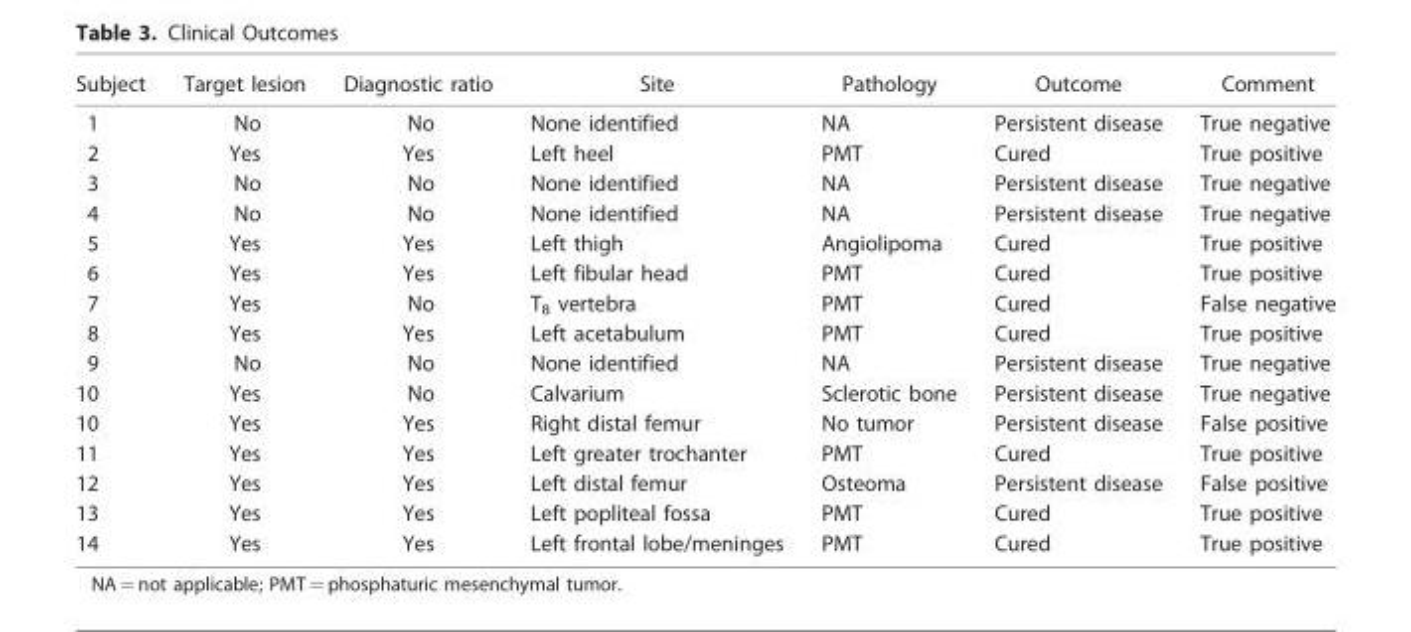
<table><thead><tr><td>Subject</td><td>Target lesion</td><td>Diagnostic ratio</td><td>Site</td><td>Pathology</td><td>Outcome</td><td>Comment</td></tr></thead><tbody><tr><td>1</td><td>No</td><td>No</td><td>None identified</td><td>NA</td><td>Persistent disease</td><td>True negative</td></tr><tr><td>2</td><td>Yes</td><td>Yes</td><td>Left heel</td><td>PMT</td><td>Cured</td><td>True positive</td></tr><tr><td>3</td><td>No</td><td>No</td><td>None identified</td><td>NA</td><td>Persistent disease</td><td>True negative</td></tr><tr><td>4</td><td>No</td><td>No</td><td>None identified</td><td>NA</td><td>Persistent disease</td><td>True negative</td></tr><tr><td>5</td><td>Yes</td><td>Yes</td><td>Left thigh</td><td>Angiolipoma</td><td>Cured</td><td>True positive</td></tr><tr><td>6</td><td>Yes</td><td>Yes</td><td>Left fibular head</td><td>PMT</td><td>Cured</td><td>True positive</td></tr><tr><td>7</td><td>Yes</td><td>No</td><td>T<sub>8</sub> vertebra</td><td>PMT</td><td>Cured</td><td>False negative</td></tr><tr><td>8</td><td>Yes</td><td>Yes</td><td>Left acetabulum</td><td>PMT</td><td>Cured</td><td>True positive</td></tr><tr><td>9</td><td>No</td><td>No</td><td>None identified</td><td>NA</td><td>Persistent disease</td><td>True negative</td></tr><tr><td>10</td><td>Yes</td><td>No</td><td>Calvarium</td><td>Sclerotic bone</td><td>Persistent disease</td><td>True negative</td></tr><tr><td>10</td><td>Yes</td><td>Yes</td><td>Right distal femur</td><td>No tumor</td><td>Persistent disease</td><td>False positive</td></tr><tr><td>11</td><td>Yes</td><td>Yes</td><td>Left greater trochanter</td><td>PMT</td><td>Cured</td><td>True positive</td></tr><tr><td>12</td><td>Yes</td><td>Yes</td><td>Left distal femur</td><td>Osteoma</td><td>Persistent disease</td><td>False positive</td></tr><tr><td>13</td><td>Yes</td><td>Yes</td><td>Left popliteal fossa</td><td>PMT</td><td>Cured</td><td>True positive</td></tr><tr><td>14</td><td>Yes</td><td>Yes</td><td>Left frontal lobe/meninges</td><td>PMT</td><td>Cured</td><td>True positive</td></tr></tbody></table>